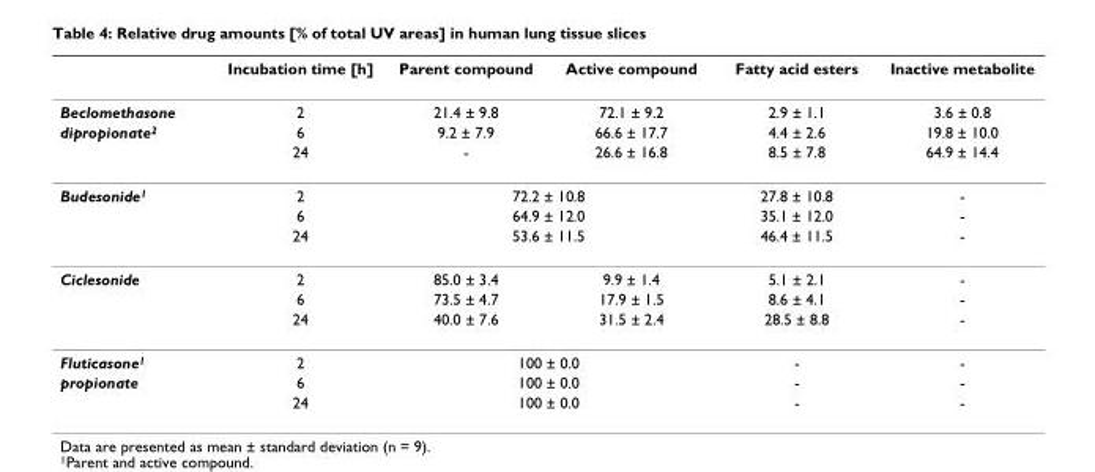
<table><thead><tr><td></td><td>Incubation time [h]</td><td>Parent compound</td><td>Active compound</td><td>Fatty acid esters</td><td>Inactive metabolite</td></tr></thead><tbody><tr><td>Beclomethasone</td><td>2</td><td>21.4 ± 9.8</td><td>72.1 ± 9.2</td><td>2.9 ± 1.1</td><td>3.6 ± 0.8</td></tr><tr><td rowspan="2">dipropionate<sup>2</sup></td><td>6</td><td>9.2 ± 7.9</td><td>66.6 ± 17.7</td><td>4.4 ± 2.6</td><td>19.8 ± 10.0</td></tr><tr><td>24</td><td>-</td><td>26.6 ± 16.8</td><td>8.5 ± 7.8</td><td>64.9 ± 14.4</td></tr><tr><td rowspan="3">Budesonide<sup>1</sup></td><td>2</td><td colspan="2">72.2 ± 10.8</td><td>27.8 ± 10.8</td><td>-</td></tr><tr><td>6</td><td colspan="2">64.9 ± 12.0</td><td>35.1 ± 12.0</td><td>-</td></tr><tr><td>24</td><td colspan="2">53.6 ± 11.5</td><td>46.4 ± 11.5</td><td>-</td></tr><tr><td rowspan="3">Ciclesonide</td><td>2</td><td>85.0 ± 3.4</td><td>9.9 ± 1.4</td><td>5.1 ± 2.1</td><td>-</td></tr><tr><td>6</td><td>73.5 ± 4.7</td><td>17.9 ± 1.5</td><td>8.6 ± 4.1</td><td>-</td></tr><tr><td>24</td><td>40.0 ± 7.6</td><td>31.5 ± 2.4</td><td>28.5 ± 8.8</td><td>-</td></tr><tr><td>Fluticasone<sup>1</sup></td><td>2</td><td colspan="2">100 ± 0.0</td><td>-</td><td>-</td></tr><tr><td rowspan="2">propionate</td><td>6</td><td colspan="2">100 ± 0.0</td><td>-</td><td>-</td></tr><tr><td>24</td><td colspan="2">100 ± 0.0</td><td>-</td><td>-</td></tr></tbody></table>